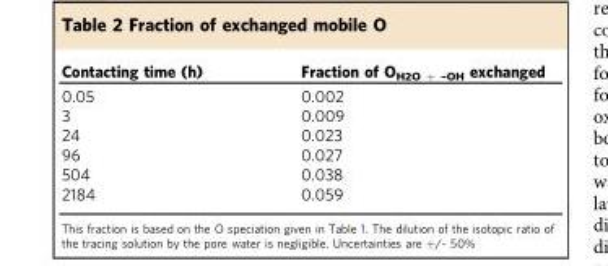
<table><thead><tr><td>Contacting time (h)</td><td>Fraction of O<sub>H2O + –OH</sub> exchanged</td></tr></thead><tbody><tr><td>0.05</td><td>0.002</td></tr><tr><td>3</td><td>0.009</td></tr><tr><td>24</td><td>0.023</td></tr><tr><td>96</td><td>0.027</td></tr><tr><td>504</td><td>0.038</td></tr><tr><td>2184</td><td>0.059</td></tr></tbody></table>